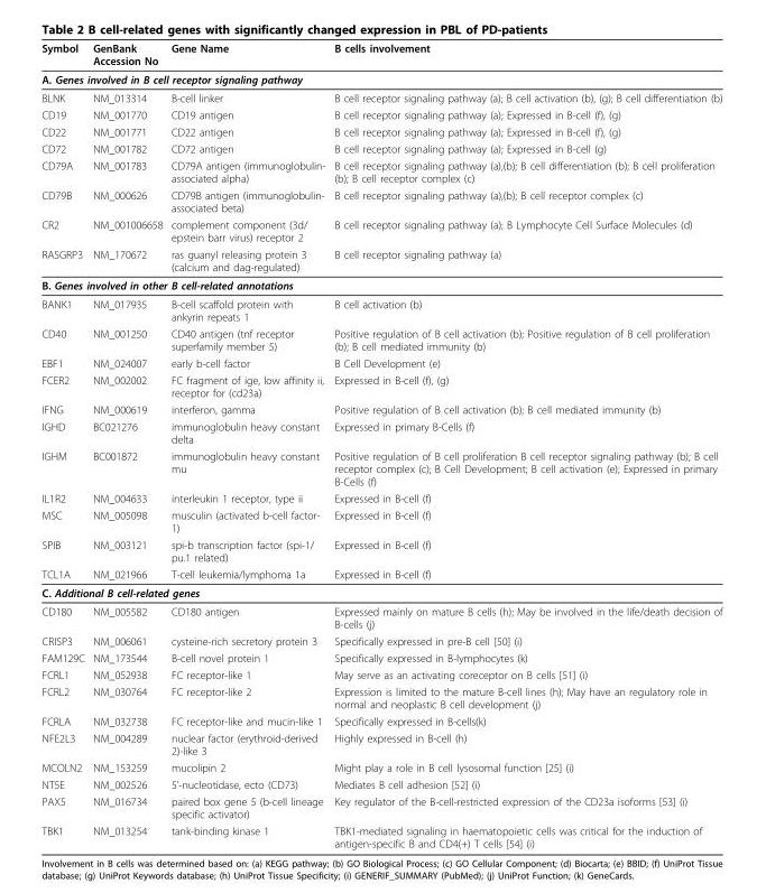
<table><thead><tr><td>Symbol</td><td>GenBank Accession No</td><td>Gene Name</td><td>B cells involvement</td></tr></thead><tbody><tr><td colspan="4">A. Genes involved in B cell receptor signaling pathway</td></tr><tr><td>BLNK</td><td>NM_013314</td><td>B-cell linker</td><td>B cell receptor signaling pathway (a); B cell activation (b), (g); B cell differentiation (b)</td></tr><tr><td>CD19</td><td>NM_001770</td><td>CD19 antigen</td><td>B cell receptor signaling pathway (a); Expressed in B-cell (f), (g)</td></tr><tr><td>CD22</td><td>NM_001771</td><td>CD22 antigen</td><td>B cell receptor signaling pathway (a); Expressed in B-cell (f), (g)</td></tr><tr><td>CD72</td><td>NM_001782</td><td>CD72 antigen</td><td>B cell receptor signaling pathway (a); Expressed in B-cell (g)</td></tr><tr><td>CD79A</td><td>NM_001783</td><td>CD79A antigen (immunoglobulin- associated alpha)</td><td>B cell receptor signaling pathway (a),(b); B cell differentiation (b); B cell proliferation (b); B cell receptor complex (c)</td></tr><tr><td>CD79B</td><td>NM_000626</td><td>CD79B antigen (immunoglobulin- associated beta)</td><td>B cell receptor signaling pathway (a),(b); B cell receptor complex (c)</td></tr><tr><td>CR2</td><td>NM_001006658</td><td>complement component (3d/ epstein barr virus) receptor 2</td><td>B cell receptor signaling pathway (a); B Lymphocyte Cell Surface Molecules (d)</td></tr><tr><td>RASGRP3</td><td>NM_170672</td><td>ras guanyl releasing protein 3 (calcium and dag-regulated)</td><td>B cell receptor signaling pathway (a)</td></tr><tr><td colspan="4">B. Genes involved in other B cell-related annotations</td></tr><tr><td>BANK1</td><td>NM_017935</td><td>B-cell scaffold protein with ankyrin repeats 1</td><td>B cell activation (b)</td></tr><tr><td>CD40</td><td>NM_001250</td><td>CD40 antigen (tnf receptor superfamily member 5)</td><td>Positive regulation of B cell activation (b); Positive regulation of B cell proliferation (b); B cell mediated immunity (b)</td></tr><tr><td>EBF1</td><td>NM_024007</td><td>early b-cell factor</td><td>B Cell Development (e)</td></tr><tr><td>FCER2</td><td>NM_002002</td><td>FC fragment of ige, low affinity ii, receptor for (cd23a)</td><td>Expressed in B-cell (f), (g)</td></tr><tr><td>IFNG</td><td>NM_000619</td><td>interferon, gamma</td><td>Positive regulation of B cell activation (b); B cell mediated immunity (b)</td></tr><tr><td>IGHD</td><td>BC021276</td><td>immunoglobulin heavy constant delta</td><td>Expressed in primary B-Cells (f)</td></tr><tr><td>IGHM</td><td>BC001872</td><td>immunoglobulin heavy constant mu</td><td>Positive regulation of B cell proliferation B cell receptor signaling pathway (b); B cell receptor complex (c); B Cell Development; B cell activation (e); Expressed in primary B-Cells (f)</td></tr><tr><td>IL1R2</td><td>NM_004633</td><td>interleukin 1 receptor, type ii</td><td>Expressed in B-cell (f)</td></tr><tr><td>MSC</td><td>NM_005098</td><td>musculin (activated b-cell factor- 1)</td><td>Expressed in B-cell (f)</td></tr><tr><td>SPIB</td><td>NM_003121</td><td>spi-b transcription factor (spi-1/ pu.1 related)</td><td>Expressed in B-cell (f)</td></tr><tr><td>TCL1A</td><td>NM_021966</td><td>T-cell leukemia/lymphoma 1a</td><td>Expressed in B-cell (f)</td></tr><tr><td colspan="4">C. Additional B cell-related genes</td></tr><tr><td>CD180</td><td>NM_005582</td><td>CD180 antigen</td><td>Expressed mainly on mature B cells (h); May be involved in the life/death decision of B-cells (j)</td></tr><tr><td>CRISP3</td><td>NM_006061</td><td>cysteine-rich secretory protein 3</td><td>Specifically expressed in pre-B cell [50] (i)</td></tr><tr><td>FAM129C</td><td>NM_173544</td><td>B-cell novel protein 1</td><td>Specifically expressed in B-lymphocytes (k)</td></tr><tr><td>FCRL1</td><td>NM_052938</td><td>FC receptor-like 1</td><td>May serve as an activating coreceptor on B cells [51] (i)</td></tr><tr><td>FCRL2</td><td>NM_030764</td><td>FC receptor-like 2</td><td>Expression is limited to the mature B-cell lines (h); May have an regulatory role in normal and neoplastic B cell development (j)</td></tr><tr><td>FCRLA</td><td>NM_032738</td><td>FC receptor-like and mucin-like 1</td><td>Specifically expressed in B-cells(k)</td></tr><tr><td>NFE2L3</td><td>NM_004289</td><td>nuclear factor (erythroid-derived 2)-like 3</td><td>Highly expressed in B-cell (h)</td></tr><tr><td>MCOLN2</td><td>NM_153259</td><td>mucolipin 2</td><td>Might play a role in B cell lysosomal function [25] (i)</td></tr><tr><td>NT5E</td><td>NM_002526</td><td>5’-nucleotidase, ecto (CD73)</td><td>Mediates B cell adhesion [52] (i)</td></tr><tr><td>PAX5</td><td>NM_016734</td><td>paired box gene 5 (b-cell lineage specific activator)</td><td>Key regulator of the B-cell-restricted expression of the CD23a isoforms [53] (i)</td></tr><tr><td>TBK1</td><td>NM_013254</td><td>tank-binding kinase 1</td><td>TBK1-mediated signaling in haematopoietic cells was critical for the induction of antigen-specific B and CD4(+) T cells [54] (i)</td></tr></tbody></table>